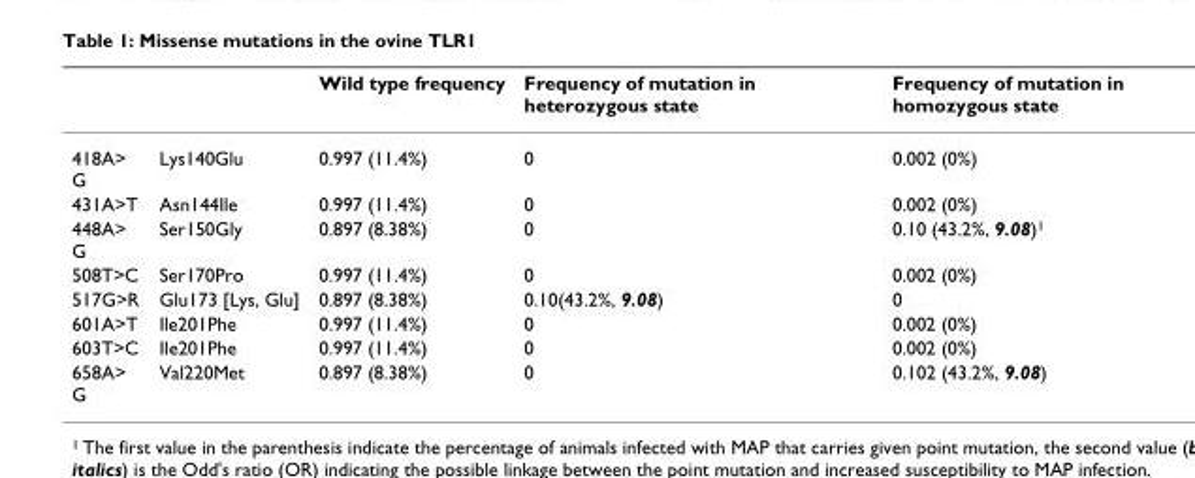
<table><thead><tr><td></td><td></td><td>Wild type frequency</td><td>Frequency of mutation in heterozygous state</td><td>Frequency of mutation in homozygous state</td></tr></thead><tbody><tr><td>418A&gt; G</td><td>Lys140Glu</td><td>0.997 (11.4%)</td><td>0</td><td>0.002 (0%)</td></tr><tr><td>431A&gt;T</td><td>Asn144Ile</td><td>0.997 (11.4%)</td><td>0</td><td>0.002 (0%)</td></tr><tr><td>448A&gt; G</td><td>Ser150Gly</td><td>0.897 (8.38%)</td><td>0</td><td>0.10 (43.2%, 9.08)<sup>1</sup></td></tr><tr><td>508T&gt;C</td><td>Ser170Pro</td><td>0.997 (11.4%)</td><td>0</td><td>0.002 (0%)</td></tr><tr><td>517G&gt;R</td><td>Glu173 [Lys, Glu]</td><td>0.897 (8.38%)</td><td>0.10(43.2%, 9.08)</td><td>0</td></tr><tr><td>601A&gt;T</td><td>Ile201Phe</td><td>0.997 (11.4%)</td><td>0</td><td>0.002 (0%)</td></tr><tr><td>603T&gt;C</td><td>Ile201Phe</td><td>0.997 (11.4%)</td><td>0</td><td>0.002 (0%)</td></tr><tr><td>658A&gt; G</td><td>Val220Met</td><td>0.897 (8.38%)</td><td>0</td><td>0.102 (43.2%, 9.08)</td></tr></tbody></table>